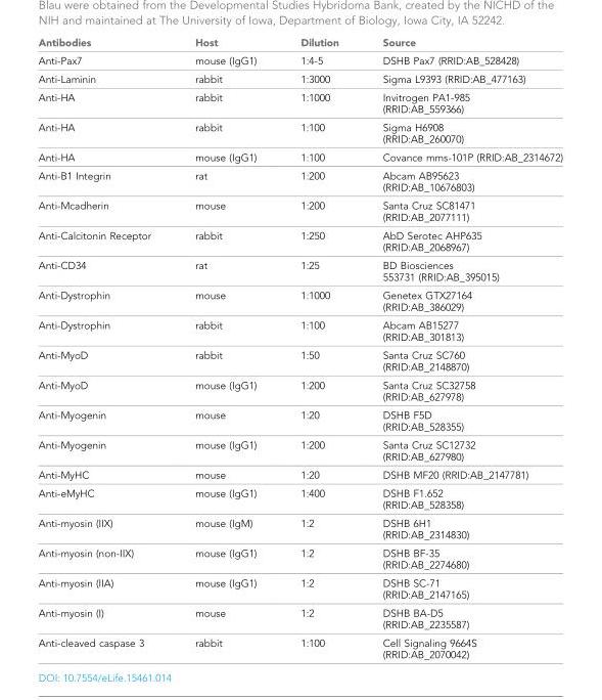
<table><thead><tr><td>Antibodies</td><td>Host</td><td>Dilution</td><td>Source</td></tr></thead><tbody><tr><td>Anti-Pax7</td><td>mouse (IgG1)</td><td>1:4-5</td><td>DSHB Pax7 (RRID:AB_528428)</td></tr><tr><td>Anti-Laminin</td><td>rabbit</td><td>1:3000</td><td>Sigma L9393 (RRID:AB_477163)</td></tr><tr><td>Anti-HA</td><td>rabbit</td><td>1:1000</td><td>Invitrogen PA1-985 (RRID:AB_559366)</td></tr><tr><td>Anti-HA</td><td>rabbit</td><td>1:100</td><td>Sigma H6908 (RRID:AB_260070)</td></tr><tr><td>Anti-HA</td><td>mouse (IgG1)</td><td>1:100</td><td>Covance mms-101P (RRID:AB_2314672)</td></tr><tr><td>Anti-B1 Integrin</td><td>rat</td><td>1:200</td><td>Abcam AB95623 (RRID:AB_10676803)</td></tr><tr><td>Anti-Mcadherin</td><td>mouse</td><td>1:200</td><td>Santa Cruz SC81471 (RRID:AB_2077111)</td></tr><tr><td>Anti-Calcitonin Receptor</td><td>rabbit</td><td>1:250</td><td>AbD Serotec AHP635 (RRID:AB_2068967)</td></tr><tr><td>Anti-CD34</td><td>rat</td><td>1:25</td><td>BD Biosciences 553731 (RRID:AB_395015)</td></tr><tr><td>Anti-Dystrophin</td><td>mouse</td><td>1:1000</td><td>Genetex GTX27164 (RRID:AB_386029)</td></tr><tr><td>Anti-Dystrophin</td><td>rabbit</td><td>1:100</td><td>Abcam AB15277 (RRID:AB_301813)</td></tr><tr><td>Anti-MyoD</td><td>rabbit</td><td>1:50</td><td>Santa Cruz SC760 (RRID:AB_2148870)</td></tr><tr><td>Anti-MyoD</td><td>mouse (IgG1)</td><td>1:200</td><td>Santa Cruz SC32758 (RRID:AB_627978)</td></tr><tr><td>Anti-Myogenin</td><td>mouse</td><td>1:20</td><td>DSHB F5D (RRID:AB_528355)</td></tr><tr><td>Anti-Myogenin</td><td>mouse (IgG1)</td><td>1:200</td><td>Santa Cruz SC12732 (RRID:AB_627980)</td></tr><tr><td>Anti-MyHC</td><td>mouse</td><td>1:20</td><td>DSHB MF20 (RRID:AB_2147781)</td></tr><tr><td>Anti-eMyHC</td><td>mouse (IgG1)</td><td>1:400</td><td>DSHB F1.652 (RRID:AB_528358)</td></tr><tr><td>Anti-myosin (IIX)</td><td>mouse (IgM)</td><td>1:2</td><td>DSHB 6H1 (RRID:AB_2314830)</td></tr><tr><td>Anti-myosin (non-IIX)</td><td>mouse (IgG1)</td><td>1:2</td><td>DSHB BF-35 (RRID:AB_2274680)</td></tr><tr><td>Anti-myosin (IIA)</td><td>mouse (IgG1)</td><td>1:2</td><td>DSHB SC-71 (RRID:AB_2147165)</td></tr><tr><td>Anti-myosin (I)</td><td>mouse</td><td>1:2</td><td>DSHB BA-D5 (RRID:AB_2235587)</td></tr><tr><td>Anti-cleaved caspase 3</td><td>rabbit</td><td>1:100</td><td>Cell Signaling 9664S (RRID:AB_2070042)</td></tr></tbody></table>